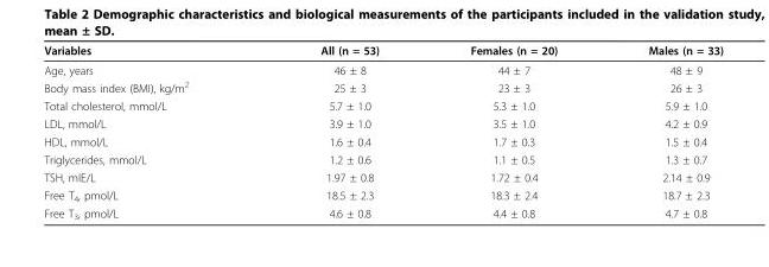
<table><thead><tr><td>Variables</td><td>All (n = 53)</td><td>Females (n = 20)</td><td>Males (n = 33)</td></tr></thead><tbody><tr><td>Age, years</td><td>46 ± 8</td><td>44 ± 7</td><td>48 ± 9</td></tr><tr><td>Body mass index (BMI), kg/m<sup>2</sup></td><td>25 ± 3</td><td>23 ± 3</td><td>26 ± 3</td></tr><tr><td>Total cholesterol, mmol/L</td><td>5.7 ± 1.0</td><td>5.3 ± 1.0</td><td>5.9 ± 1.0</td></tr><tr><td>LDL, mmol/L</td><td>3.9 ± 1.0</td><td>3.5 ± 1.0</td><td>4.2 ± 0.9</td></tr><tr><td>HDL, mmol/L</td><td>1.6 ± 0.4</td><td>1.7 ± 0.3</td><td>1.5 ± 0.4</td></tr><tr><td>Triglycerides, mmol/L</td><td>1.2 ± 0.6</td><td>1.1 ± 0.5</td><td>1.3 ± 0.7</td></tr><tr><td>TSH, mIE/L</td><td>1.97 ± 0.8</td><td>1.72 ± 0.4</td><td>2.14 ± 0.9</td></tr><tr><td>Free T<sub>4</sub>, pmol/L</td><td>18.5 ± 2.3</td><td>18.3 ± 2.4</td><td>18.7 ± 2.3</td></tr><tr><td>Free T<sub>3</sub>, pmol/L</td><td>4.6 ± 0.8</td><td>4.4 ± 0.8</td><td>4.7 ± 0.8</td></tr></tbody></table>